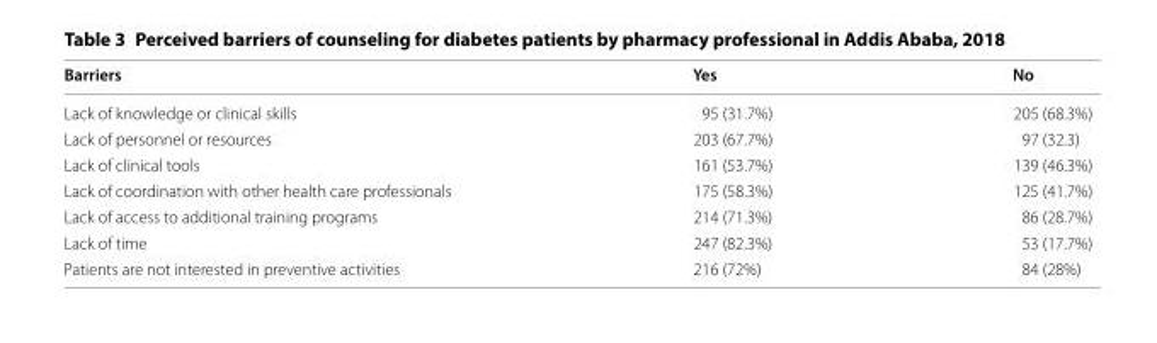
<table><thead><tr><td>Barriers</td><td>Yes</td><td>No</td></tr></thead><tbody><tr><td>Lack of knowledge or clinical skills</td><td>95 (31.7%)</td><td>205 (68.3%)</td></tr><tr><td>Lack of personnel or resources</td><td>203 (67.7%)</td><td>97 (32.3)</td></tr><tr><td>Lack of clinical tools</td><td>161 (53.7%)</td><td>139 (46.3%)</td></tr><tr><td>Lack of coordination with other health care professionals</td><td>175 (58.3%)</td><td>125 (41.7%)</td></tr><tr><td>Lack of access to additional training programs</td><td>214 (71.3%)</td><td>86 (28.7%)</td></tr><tr><td>Lack of time</td><td>247 (82.3%)</td><td>53 (17.7%)</td></tr><tr><td>Patients are not interested in preventive activities</td><td>216 (72%)</td><td>84 (28%)</td></tr></tbody></table>